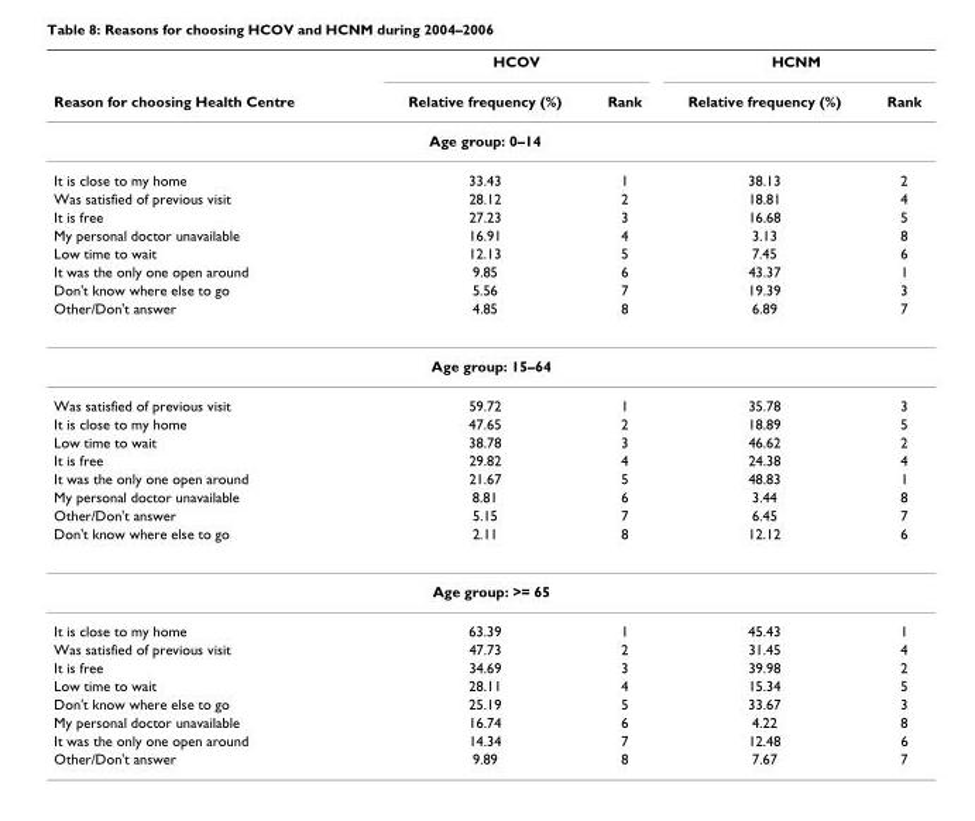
<table><thead><tr><td rowspan="2">Reason for choosing Health Centre</td><td colspan="2">HCOV</td><td colspan="2">HCNM</td></tr><tr><td>Relative frequency (%)</td><td>Rank</td><td>Relative frequency (%)</td><td>Rank</td></tr></thead><tbody><tr><td></td><td>Age group: 0–14</td><td></td><td></td><td></td></tr><tr><td>It is close to my home</td><td>33.43</td><td>1</td><td>38.13</td><td>2</td></tr><tr><td>Was satisfied of previous visit</td><td>28.12</td><td>2</td><td>18.81</td><td>4</td></tr><tr><td>It is free</td><td>27.23</td><td>3</td><td>16.68</td><td>5</td></tr><tr><td>My personal doctor unavailable</td><td>16.91</td><td>4</td><td>3.13</td><td>8</td></tr><tr><td>Low time to wait</td><td>12.13</td><td>5</td><td>7.45</td><td>6</td></tr><tr><td>It was the only one open around</td><td>9.85</td><td>6</td><td>43.37</td><td>1</td></tr><tr><td>Don&#x27;t know where else to go</td><td>5.56</td><td>7</td><td>19.39</td><td>3</td></tr><tr><td>Other/Don&#x27;t answer</td><td>4.85</td><td>8</td><td>6.89</td><td>7</td></tr><tr><td colspan="5">Age group: 15–64</td></tr><tr><td>Was satisfied of previous visit</td><td>59.72</td><td>1</td><td>35.78</td><td>3</td></tr><tr><td>It is close to my home</td><td>47.65</td><td>2</td><td>18.89</td><td>5</td></tr><tr><td>Low time to wait</td><td>38.78</td><td>3</td><td>46.62</td><td>2</td></tr><tr><td>It is free</td><td>29.82</td><td>4</td><td>24.38</td><td>4</td></tr><tr><td>It was the only one open around</td><td>21.67</td><td>5</td><td>48.83</td><td>1</td></tr><tr><td>My personal doctor unavailable</td><td>8.81</td><td>6</td><td>3.44</td><td>8</td></tr><tr><td>Other/Don&#x27;t answer</td><td>5.15</td><td>7</td><td>6.45</td><td>7</td></tr><tr><td>Don&#x27;t know where else to go</td><td>2.11</td><td>8</td><td>12.12</td><td>6</td></tr><tr><td colspan="5">Age group: &gt;= 65</td></tr><tr><td>It is close to my home</td><td>63.39</td><td>1</td><td>45.43</td><td>1</td></tr><tr><td>Was satisfied of previous visit</td><td>47.73</td><td>2</td><td>31.45</td><td>4</td></tr><tr><td>It is free</td><td>34.69</td><td>3</td><td>39.98</td><td>2</td></tr><tr><td>Low time to wait</td><td>28.11</td><td>4</td><td>15.34</td><td>5</td></tr><tr><td>Don&#x27;t know where else to go</td><td>25.19</td><td>5</td><td>33.67</td><td>3</td></tr><tr><td>My personal doctor unavailable</td><td>16.74</td><td>6</td><td>4.22</td><td>8</td></tr><tr><td>It was the only one open around</td><td>14.34</td><td>7</td><td>12.48</td><td>6</td></tr><tr><td>Other/Don&#x27;t answer</td><td>9.89</td><td>8</td><td>7.67</td><td>7</td></tr></tbody></table>